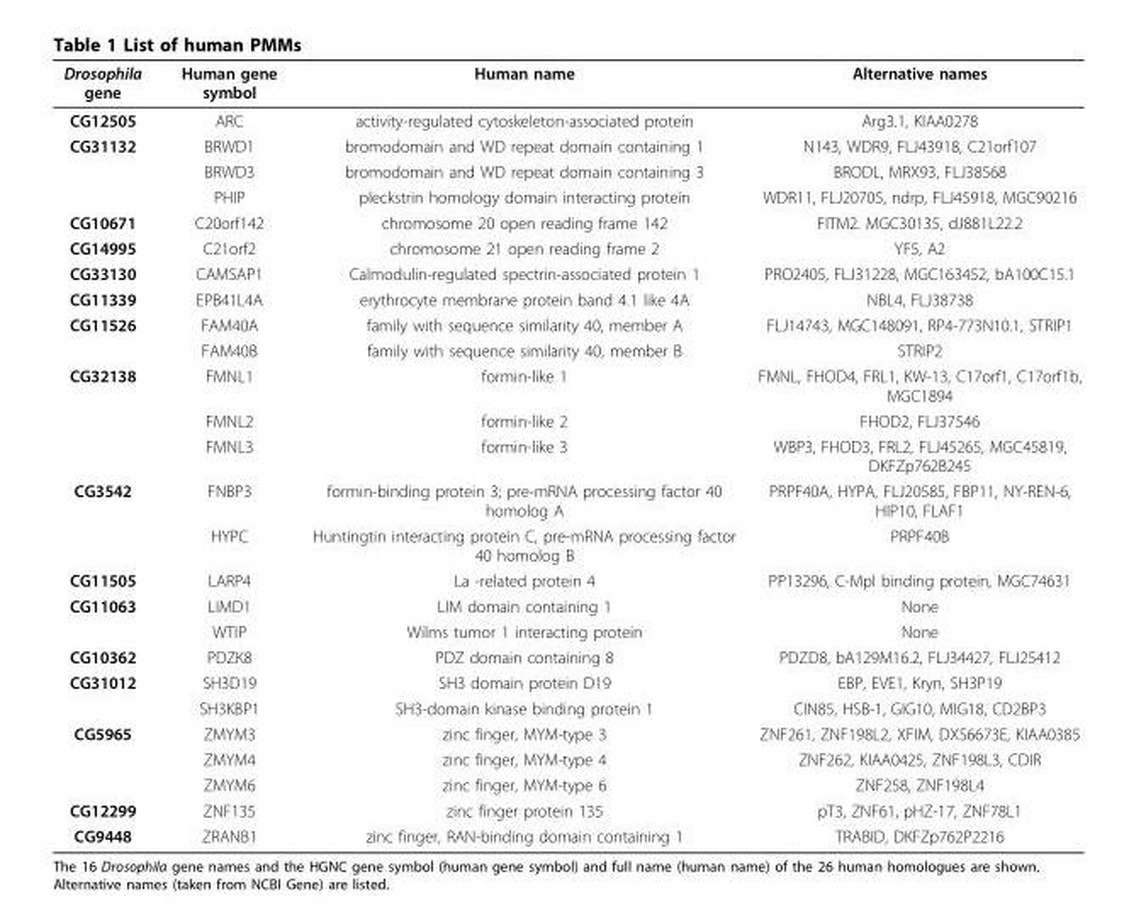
<table><thead><tr><td>Drosophila gene</td><td>Human gene symbol</td><td>Human name</td><td>Alternative names</td></tr></thead><tbody><tr><td>CG12505</td><td>ARC</td><td>activity-regulated cytoskeleton-associated protein</td><td>Arg3.1, KIAA0278</td></tr><tr><td rowspan="3">CG31132</td><td>BRWD1</td><td>bromodomain and WD repeat domain containing 1</td><td>N143, WDR9, FLJ43918, C21orf107</td></tr><tr><td>BRWD3</td><td>bromodomain and WD repeat domain containing 3</td><td>BRODL, MRX93, FLJ38568</td></tr><tr><td>PHIP</td><td>pleckstrin homology domain interacting protein</td><td>WDR11, FLJ20705, ndrp, FLJ45918, MGC90216</td></tr><tr><td>CG10671</td><td>C20orf142</td><td>chromosome 20 open reading frame 142</td><td>FITM2. MGC30135, dJ881L22.2</td></tr><tr><td>CG14995</td><td>C21orf2</td><td>chromosome 21 open reading frame 2</td><td>YF5, A2</td></tr><tr><td>CG33130</td><td>CAMSAP1</td><td>Calmodulin-regulated spectrin-associated protein 1</td><td>PRO2405, FLJ31228, MGC163452, bA100C15.1</td></tr><tr><td>CG11339</td><td>EPB41L4A</td><td>erythrocyte membrane protein band 4.1 like 4A</td><td>NBL4, FLJ38738</td></tr><tr><td rowspan="2">CG11526</td><td>FAM40A</td><td>family with sequence similarity 40, member A</td><td>FLJ14743, MGC148091, RP4-773N10.1, STRIP1</td></tr><tr><td>FAM40B</td><td>family with sequence similarity 40, member B</td><td>STRIP2</td></tr><tr><td rowspan="3">CG32138</td><td>FMNL1</td><td>formin-like 1</td><td>FMNL, FHOD4, FRL1, KW-13, C17orf1, C17orf1b, MGC1894</td></tr><tr><td>FMNL2</td><td>formin-like 2</td><td>FHOD2, FLJ37546</td></tr><tr><td>FMNL3</td><td>formin-like 3</td><td>WBP3, FHOD3, FRL2, FLJ45265, MGC45819, DKFZp762B245</td></tr><tr><td rowspan="2">CG3542</td><td>FNBP3</td><td>formin-binding protein 3; pre-mRNA processing factor 40 homolog A</td><td>PRPF40A, HYPA, FLJ20585, FBP11, NY-REN-6, HIP10, FLAF1</td></tr><tr><td>HYPC</td><td>Huntingtin interacting protein C, pre-mRNA processing factor 40 homolog B</td><td>PRPF40B</td></tr><tr><td>CG11505</td><td>LARP4</td><td>La -related protein 4</td><td>PP13296, C-Mpl binding protein, MGC74631</td></tr><tr><td rowspan="2">CG11063</td><td>LIMD1</td><td>LIM domain containing 1</td><td>None</td></tr><tr><td>WTIP</td><td>Wilms tumor 1 interacting protein</td><td>None</td></tr><tr><td>CG10362</td><td>PDZK8</td><td>PDZ domain containing 8</td><td>PDZD8, bA129M16.2, FLJ34427, FLJ25412</td></tr><tr><td rowspan="2">CG31012</td><td>SH3D19</td><td>SH3 domain protein D19</td><td>EBP, EVE1, Kryn, SH3P19</td></tr><tr><td>SH3KBP1</td><td>SH3-domain kinase binding protein 1</td><td>CIN85, HSB-1, GIG10, MIG18, CD2BP3</td></tr><tr><td rowspan="3">CG5965</td><td>ZMYM3</td><td>zinc finger, MYM-type 3</td><td>ZNF261, ZNF198L2, XFIM, DXS6673E, KIAA0385</td></tr><tr><td>ZMYM4</td><td>zinc finger, MYM-type 4</td><td>ZNF262, KIAA0425, ZNF198L3, CDIR</td></tr><tr><td>ZMYM6</td><td>zinc finger, MYM-type 6</td><td>ZNF258, ZNF198L4</td></tr><tr><td>CG12299</td><td>ZNF135</td><td>zinc finger protein 135</td><td>pT3, ZNF61, pHZ-17, ZNF78L1</td></tr><tr><td>CG9448</td><td>ZRANB1</td><td>zinc finger, RAN-binding domain containing 1</td><td>TRABID, DKFZp762P2216</td></tr></tbody></table>